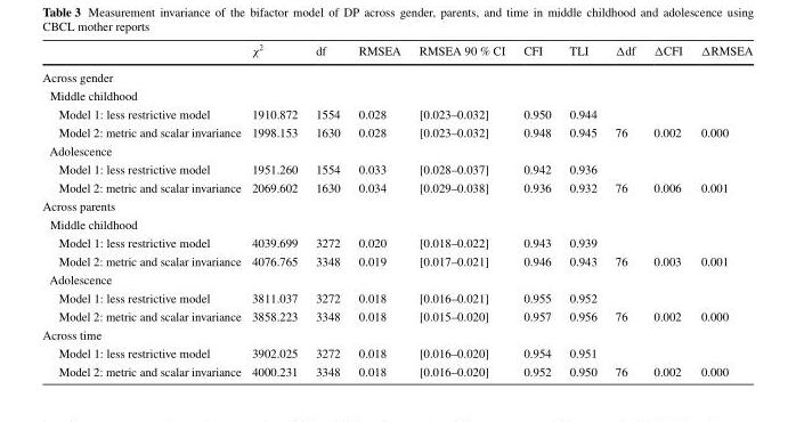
<table><thead><tr><td></td><td>χ<sup>2</sup></td><td>df</td><td>RMSEA</td><td>RMSEA 90 % CI</td><td>CFI</td><td>TLI</td><td>Δdf</td><td>ΔCFI</td><td>ΔRMSEA</td></tr></thead><tbody><tr><td colspan="10">Across gender</td></tr><tr><td colspan="10">Middle childhood</td></tr><tr><td>Model 1: less restrictive model</td><td>1910.872</td><td>1554</td><td>0.028</td><td>[0.023–0.032]</td><td>0.950</td><td>0.944</td><td></td><td></td><td></td></tr><tr><td>Model 2: metric and scalar invariance</td><td>1998.153</td><td>1630</td><td>0.028</td><td>[0.023–0.032]</td><td>0.948</td><td>0.945</td><td>76</td><td>0.002</td><td>0.000</td></tr><tr><td colspan="10">Adolescence</td></tr><tr><td>Model 1: less restrictive model</td><td>1951.260</td><td>1554</td><td>0.033</td><td>[0.028–0.037]</td><td>0.942</td><td>0.936</td><td></td><td></td><td></td></tr><tr><td>Model 2: metric and scalar invariance</td><td>2069.602</td><td>1630</td><td>0.034</td><td>[0.029–0.038]</td><td>0.936</td><td>0.932</td><td>76</td><td>0.006</td><td>0.001</td></tr><tr><td colspan="10">Across parents</td></tr><tr><td colspan="10">Middle childhood</td></tr><tr><td>Model 1: less restrictive model</td><td>4039.699</td><td>3272</td><td>0.020</td><td>[0.018–0.022]</td><td>0.943</td><td>0.939</td><td></td><td></td><td></td></tr><tr><td>Model 2: metric and scalar invariance</td><td>4076.765</td><td>3348</td><td>0.019</td><td>[0.017–0.021]</td><td>0.946</td><td>0.943</td><td>76</td><td>0.003</td><td>0.001</td></tr><tr><td colspan="10">Adolescence</td></tr><tr><td>Model 1: less restrictive model</td><td>3811.037</td><td>3272</td><td>0.018</td><td>[0.016–0.021]</td><td>0.955</td><td>0.952</td><td></td><td></td><td></td></tr><tr><td>Model 2: metric and scalar invariance</td><td>3858.223</td><td>3348</td><td>0.018</td><td>[0.015–0.020]</td><td>0.957</td><td>0.956</td><td>76</td><td>0.002</td><td>0.000</td></tr><tr><td colspan="10">Across time</td></tr><tr><td>Model 1: less restrictive model</td><td>3902.025</td><td>3272</td><td>0.018</td><td>[0.016–0.020]</td><td>0.954</td><td>0.951</td><td></td><td></td><td></td></tr><tr><td>Model 2: metric and scalar invariance</td><td>4000.231</td><td>3348</td><td>0.018</td><td>[0.016–0.020]</td><td>0.952</td><td>0.950</td><td>76</td><td>0.002</td><td>0.000</td></tr></tbody></table>